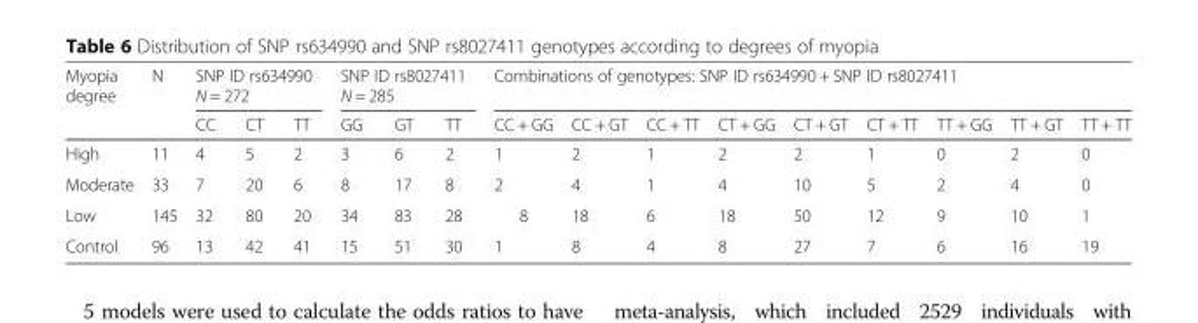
<table><thead><tr><td rowspan="2">Myopia degree</td><td rowspan="2">N</td><td colspan="3">SNP ID rs634990 N = 272</td><td colspan="3">SNP ID rs8027411 N = 285</td><td colspan="9">Combinations of genotypes: SNP ID rs634990 + SNP ID rs8027411</td></tr><tr><td>CC</td><td>CT</td><td>TT</td><td>GG</td><td>GT</td><td>TT</td><td>CC + GG</td><td>CC + GT</td><td>CC + TT</td><td>CT + GG</td><td>CT + GT</td><td>CT + TT</td><td>TT + GG</td><td>TT + GT</td><td>TT + TT</td></tr></thead><tbody><tr><td>High</td><td>11</td><td>4</td><td>5</td><td>2</td><td>3</td><td>6</td><td>2</td><td>1</td><td>2</td><td>1</td><td>2</td><td>2</td><td>1</td><td>0</td><td>2</td><td>0</td></tr><tr><td>Moderate</td><td>33</td><td>7</td><td>20</td><td>6</td><td>8</td><td>17</td><td>8</td><td>2</td><td>4</td><td>1</td><td>4</td><td>10</td><td>5</td><td>2</td><td>4</td><td>0</td></tr><tr><td>Low</td><td>145</td><td>32</td><td>80</td><td>20</td><td>34</td><td>83</td><td>28</td><td>8</td><td>18</td><td>6</td><td>18</td><td>50</td><td>12</td><td>9</td><td>10</td><td>1</td></tr><tr><td>Control</td><td>96</td><td>13</td><td>42</td><td>41</td><td>15</td><td>51</td><td>30</td><td>1</td><td>8</td><td>4</td><td>8</td><td>27</td><td>7</td><td>6</td><td>16</td><td>19</td></tr></tbody></table>